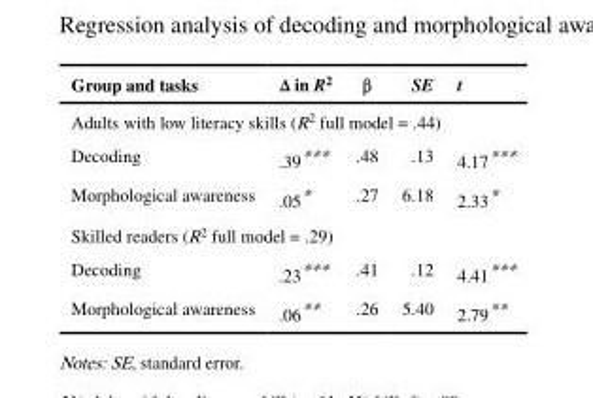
<table><thead><tr><td>Group and tasks</td><td>Δ in R<sup>2</sup></td><td>β</td><td>SE</td><td>t</td></tr></thead><tbody><tr><td colspan="5">Adults with low literacy skills (R<sup>2</sup> full model = .44)</td></tr><tr><td>Decoding</td><td>.39***</td><td>.48</td><td>.13</td><td>4.17***</td></tr><tr><td>Morphological awareness</td><td>.05*</td><td>.27</td><td>6.18</td><td>2.33*</td></tr><tr><td colspan="5">Skilled readers (R<sup>2</sup> full model = .29)</td></tr><tr><td>Decoding</td><td>.23***</td><td>.41</td><td>.12</td><td>4.41***</td></tr><tr><td>Morphological awareness</td><td>.06**</td><td>.26</td><td>5.40</td><td>2.79**</td></tr></tbody></table>